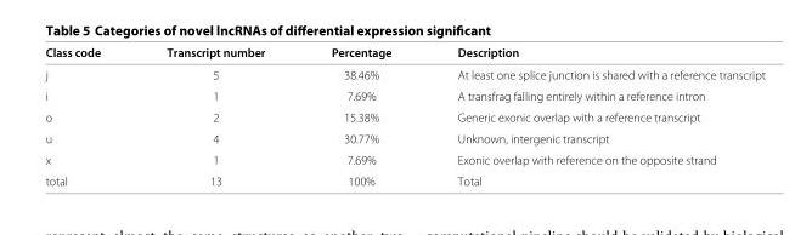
<table><thead><tr><td>Class code</td><td>Transcript number</td><td>Percentage</td><td>Description</td></tr></thead><tbody><tr><td>j</td><td>5</td><td>38.46%</td><td>At least one splice junction is shared with a reference transcript</td></tr><tr><td>i</td><td>1</td><td>7.69%</td><td>A transfrag falling entirely within a reference intron</td></tr><tr><td>o</td><td>2</td><td>15.38%</td><td>Generic exonic overlap with a reference transcript</td></tr><tr><td>u</td><td>4</td><td>30.77%</td><td>Unknown, intergenic transcript</td></tr><tr><td>x</td><td>1</td><td>7.69%</td><td>Exonic overlap with reference on the opposite strand</td></tr><tr><td>total</td><td>13</td><td>100%</td><td>Total</td></tr></tbody></table>